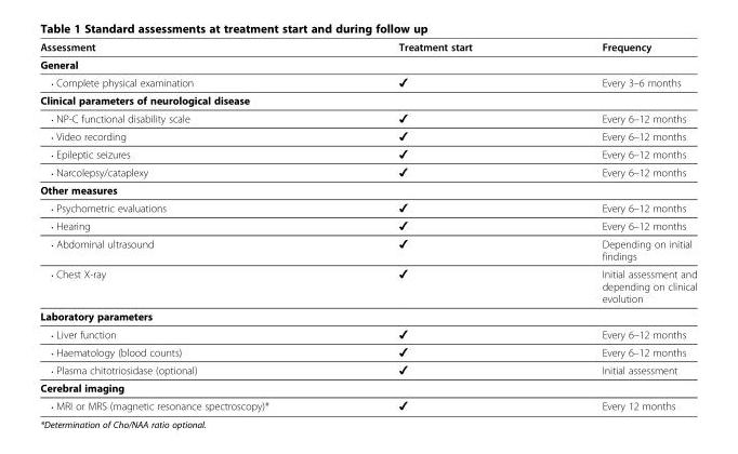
<table><thead><tr><td>Assessment</td><td>Treatment start</td><td>Frequency</td></tr></thead><tbody><tr><td colspan="3">General</td></tr><tr><td>• Complete physical examination</td><td>✔</td><td>Every 3–6 months</td></tr><tr><td colspan="3">Clinical parameters of neurological disease</td></tr><tr><td>• NP-C functional disability scale</td><td>✔</td><td>Every 6–12 months</td></tr><tr><td>• Video recording</td><td>✔</td><td>Every 6–12 months</td></tr><tr><td>• Epileptic seizures</td><td>✔</td><td>Every 6–12 months</td></tr><tr><td>• Narcolepsy/cataplexy</td><td>✔</td><td>Every 6–12 months</td></tr><tr><td colspan="3">Other measures</td></tr><tr><td>• Psychometric evaluations</td><td>✔</td><td>Every 6–12 months</td></tr><tr><td>• Hearing</td><td>✔</td><td>Every 6–12 months</td></tr><tr><td>• Abdominal ultrasound</td><td>✔</td><td>Depending on initial findings</td></tr><tr><td>• Chest X-ray</td><td>✔</td><td>Initial assessment and depending on clinical evolution</td></tr><tr><td colspan="3">Laboratory parameters</td></tr><tr><td>• Liver function</td><td>✔</td><td>Every 6–12 months</td></tr><tr><td>• Haematology (blood counts)</td><td>✔</td><td>Every 6–12 months</td></tr><tr><td>• Plasma chitotriosidase (optional)</td><td>✔</td><td>Initial assessment</td></tr><tr><td colspan="3">Cerebral imaging</td></tr><tr><td>• MRI or MRS (magnetic resonance spectroscopy)*</td><td>✔</td><td>Every 12 months</td></tr></tbody></table>